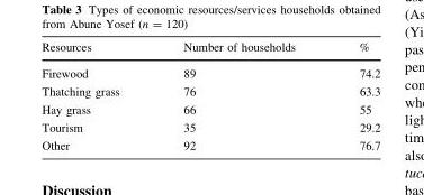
<table><thead><tr><td>Resources</td><td>Number of households</td><td>%</td></tr></thead><tbody><tr><td>Firewood</td><td>89</td><td>74.2</td></tr><tr><td>Thatching grass</td><td>76</td><td>63.3</td></tr><tr><td>Hay grass</td><td>66</td><td>55</td></tr><tr><td>Tourism</td><td>35</td><td>29.2</td></tr><tr><td>Other</td><td>92</td><td>76.7</td></tr></tbody></table>